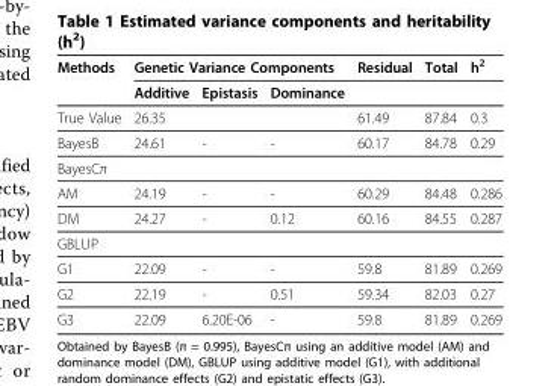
<table><thead><tr><td rowspan="2">Methods</td><td colspan="3">Genetic Variance Components</td><td rowspan="2">Residual</td><td rowspan="2">Total</td><td rowspan="2">h<sup>2</sup></td></tr><tr><td>Additive</td><td>Epistasis</td><td>Dominance</td></tr></thead><tbody><tr><td>True Value</td><td>26.35</td><td></td><td></td><td>61.49</td><td>87.84</td><td>0.3</td></tr><tr><td>BayesB</td><td>24.61</td><td>-</td><td>-</td><td>60.17</td><td>84.78</td><td>0.29</td></tr><tr><td colspan="7">BayesCπ</td></tr><tr><td>AM</td><td>24.19</td><td>-</td><td>-</td><td>60.29</td><td>84.48</td><td>0.286</td></tr><tr><td>DM</td><td>24.27</td><td>-</td><td>0.12</td><td>60.16</td><td>84.55</td><td>0.287</td></tr><tr><td colspan="7">GBLUP</td></tr><tr><td>G1</td><td>22.09</td><td>-</td><td>-</td><td>59.8</td><td>81.89</td><td>0.269</td></tr><tr><td>G2</td><td>22.19</td><td>-</td><td>0.51</td><td>59.34</td><td>82.03</td><td>0.27</td></tr><tr><td>G3</td><td>22.09</td><td>6.20E-06</td><td>-</td><td>59.8</td><td>81.89</td><td>0.269</td></tr></tbody></table>